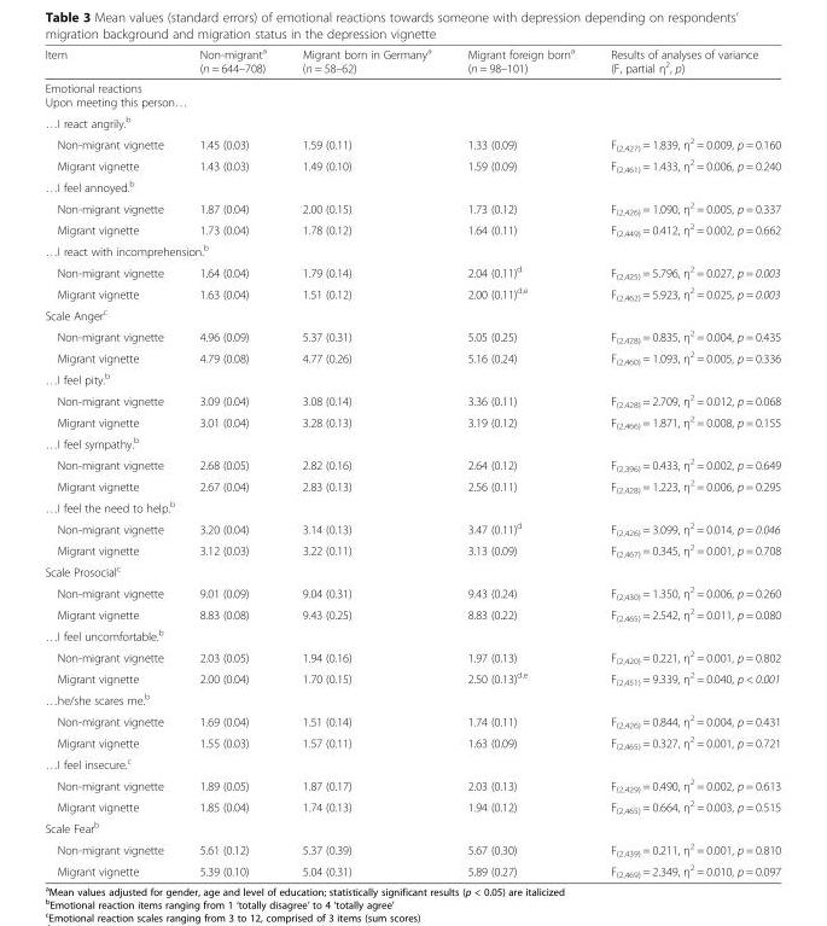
<table><thead><tr><td>Item</td><td>Non-migrant<sup>a</sup> (n = 644–708)</td><td>Migrant born in Germany<sup>a</sup> (n = 58–62)</td><td>Migrant foreign born<sup>a</sup> (n = 98–101)</td><td>Results of analyses of variance (F, partial η<sup>2</sup>, p)</td></tr></thead><tbody><tr><td colspan="5">Emotional reactions Upon meeting this person…</td></tr><tr><td colspan="5">…I react angrily.<sup>b</sup></td></tr><tr><td>Non-migrant vignette</td><td>1.45 (0.03)</td><td>1.59 (0.11)</td><td>1.33 (0.09)</td><td>F<sub>(2,427)</sub> = 1.839, η<sup>2</sup> = 0.009, p = 0.160</td></tr><tr><td>Migrant vignette</td><td>1.43 (0.03)</td><td>1.49 (0.10)</td><td>1.59 (0.09)</td><td>F<sub>(2,461)</sub> = 1.433, η<sup>2</sup> = 0.006, p = 0.240</td></tr><tr><td colspan="5">…I feel annoyed.<sup>b</sup></td></tr><tr><td>Non-migrant vignette</td><td>1.87 (0.04)</td><td>2.00 (0.15)</td><td>1.73 (0.12)</td><td>F<sub>(2,426)</sub> = 1.090, η<sup>2</sup> = 0.005, p = 0.337</td></tr><tr><td>Migrant vignette</td><td>1.73 (0.04)</td><td>1.78 (0.12)</td><td>1.64 (0.11)</td><td>F<sub>(2,449)</sub> = 0.412, η<sup>2</sup> = 0.002, p = 0.662</td></tr><tr><td colspan="5">…I react with incomprehension.<sup>b</sup></td></tr><tr><td>Non-migrant vignette</td><td>1.64 (0.04)</td><td>1.79 (0.14)</td><td>2.04 (0.11)<sup>d</sup></td><td>F<sub>(2,425)</sub> = 5.796, η<sup>2</sup> = 0.027, p = 0.003</td></tr><tr><td>Migrant vignette</td><td>1.63 (0.04)</td><td>1.51 (0.12)</td><td>2.00 (0.11)<sup>d,e</sup></td><td>F<sub>(2,462)</sub> = 5.923, η<sup>2</sup> = 0.025, p = 0.003</td></tr><tr><td colspan="5">Scale Anger<sup>c</sup></td></tr><tr><td>Non-migrant vignette</td><td>4.96 (0.09)</td><td>5.37 (0.31)</td><td>5.05 (0.25)</td><td>F<sub>(2,428)</sub> = 0.835, η<sup>2</sup> = 0.004, p = 0.435</td></tr><tr><td>Migrant vignette</td><td>4.79 (0.08)</td><td>4.77 (0.26)</td><td>5.16 (0.24)</td><td>F<sub>(2,460)</sub> = 1.093, η<sup>2</sup> = 0.005, p = 0.336</td></tr><tr><td colspan="5">…I feel pity.<sup>b</sup></td></tr><tr><td>Non-migrant vignette</td><td>3.09 (0.04)</td><td>3.08 (0.14)</td><td>3.36 (0.11)</td><td>F<sub>(2,428)</sub> = 2.709, η<sup>2</sup> = 0.012, p = 0.068</td></tr><tr><td>Migrant vignette</td><td>3.01 (0.04)</td><td>3.28 (0.13)</td><td>3.19 (0.12)</td><td>F<sub>(2,466)</sub> = 1.871, η<sup>2</sup> = 0.008, p = 0.155</td></tr><tr><td colspan="5">…I feel sympathy.<sup>b</sup></td></tr><tr><td>Non-migrant vignette</td><td>2.68 (0.05)</td><td>2.82 (0.16)</td><td>2.64 (0.12)</td><td>F<sub>(2,396)</sub> = 0.433, η<sup>2</sup> = 0.002, p = 0.649</td></tr><tr><td>Migrant vignette</td><td>2.67 (0.04)</td><td>2.83 (0.13)</td><td>2.56 (0.11)</td><td>F<sub>(2,428)</sub> = 1.223, η<sup>2</sup> = 0.006, p = 0.295</td></tr><tr><td colspan="5">…I feel the need to help.<sup>b</sup></td></tr><tr><td>Non-migrant vignette</td><td>3.20 (0.04)</td><td>3.14 (0.13)</td><td>3.47 (0.11)<sup>d</sup></td><td>F<sub>(2,426)</sub> = 3.099, η<sup>2</sup> = 0.014, p = 0.046</td></tr><tr><td>Migrant vignette</td><td>3.12 (0.03)</td><td>3.22 (0.11)</td><td>3.13 (0.09)</td><td>F<sub>(2,467)</sub> = 0.345, η<sup>2</sup> = 0.001, p = 0.708</td></tr><tr><td colspan="5">Scale Prosocial<sup>c</sup></td></tr><tr><td>Non-migrant vignette</td><td>9.01 (0.09)</td><td>9.04 (0.31)</td><td>9.43 (0.24)</td><td>F<sub>(2,430)</sub> = 1.350, η<sup>2</sup> = 0.006, p = 0.260</td></tr><tr><td>Migrant vignette</td><td>8.83 (0.08)</td><td>9.43 (0.25)</td><td>8.83 (0.22)</td><td>F<sub>(2,465)</sub> = 2.542, η<sup>2</sup> = 0.011, p = 0.080</td></tr><tr><td colspan="5">…I feel uncomfortable.<sup>b</sup></td></tr><tr><td>Non-migrant vignette</td><td>2.03 (0.05)</td><td>1.94 (0.16)</td><td>1.97 (0.13)</td><td>F<sub>(2,420)</sub> = 0.221, η<sup>2</sup> = 0.001, p = 0.802</td></tr><tr><td>Migrant vignette</td><td>2.00 (0.04)</td><td>1.70 (0.15)</td><td>2.50 (0.13)<sup>d,e</sup></td><td>F<sub>(2,451)</sub> = 9.339, η<sup>2</sup> = 0.040, p &lt; 0.001</td></tr><tr><td colspan="5">…he/she scares me.<sup>b</sup></td></tr><tr><td>Non-migrant vignette</td><td>1.69 (0.04)</td><td>1.51 (0.14)</td><td>1.74 (0.11)</td><td>F<sub>(2,426)</sub> = 0.844, η<sup>2</sup> = 0.004, p = 0.431</td></tr><tr><td>Migrant vignette</td><td>1.55 (0.03)</td><td>1.57 (0.11)</td><td>1.63 (0.09)</td><td>F<sub>(2,465)</sub> = 0.327, η<sup>2</sup> = 0.001, p = 0.721</td></tr><tr><td colspan="5">…I feel insecure.<sup>c</sup></td></tr><tr><td>Non-migrant vignette</td><td>1.89 (0.05)</td><td>1.87 (0.17)</td><td>2.03 (0.13)</td><td>F<sub>(2,429)</sub> = 0.490, η<sup>2</sup> = 0.002, p = 0.613</td></tr><tr><td>Migrant vignette</td><td>1.85 (0.04)</td><td>1.74 (0.13)</td><td>1.94 (0.12)</td><td>F<sub>(2,465)</sub> = 0.664, η<sup>2</sup> = 0.003, p = 0.515</td></tr><tr><td colspan="5">Scale Fear<sup>b</sup></td></tr><tr><td>Non-migrant vignette</td><td>5.61 (0.12)</td><td>5.37 (0.39)</td><td>5.67 (0.30)</td><td>F<sub>(2,439)</sub> = 0.211, η<sup>2</sup> = 0.001, p = 0.810</td></tr><tr><td>Migrant vignette</td><td>5.39 (0.10)</td><td>5.04 (0.31)</td><td>5.89 (0.27)</td><td>F<sub>(2,469)</sub> = 2.349, η<sup>2</sup> = 0.010, p = 0.097</td></tr></tbody></table>